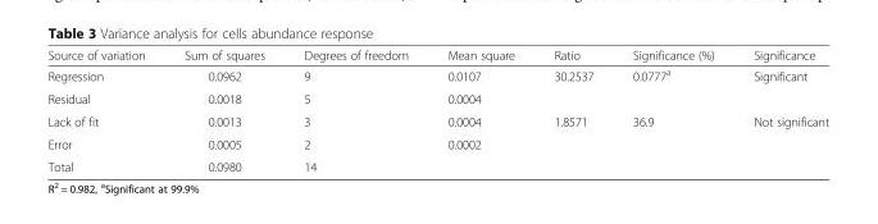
<table><thead><tr><td>Source of variation</td><td>Sum of squares</td><td>Degrees of freedom</td><td>Mean square</td><td>Ratio</td><td>Significance (%)</td><td>Significance</td></tr></thead><tbody><tr><td>Regression</td><td>0.0962</td><td>9</td><td>0.0107</td><td>30.2537</td><td>0.0777<sup>a</sup></td><td>Significant</td></tr><tr><td>Residual</td><td>0.0018</td><td>5</td><td>0.0004</td><td></td><td></td><td></td></tr><tr><td>Lack of fit</td><td>0.0013</td><td>3</td><td>0.0004</td><td>1.8571</td><td>36.9</td><td>Not significant</td></tr><tr><td>Error</td><td>0.0005</td><td>2</td><td>0.0002</td><td></td><td></td><td></td></tr><tr><td>Total</td><td>0.0980</td><td>14</td><td></td><td></td><td></td><td></td></tr></tbody></table>